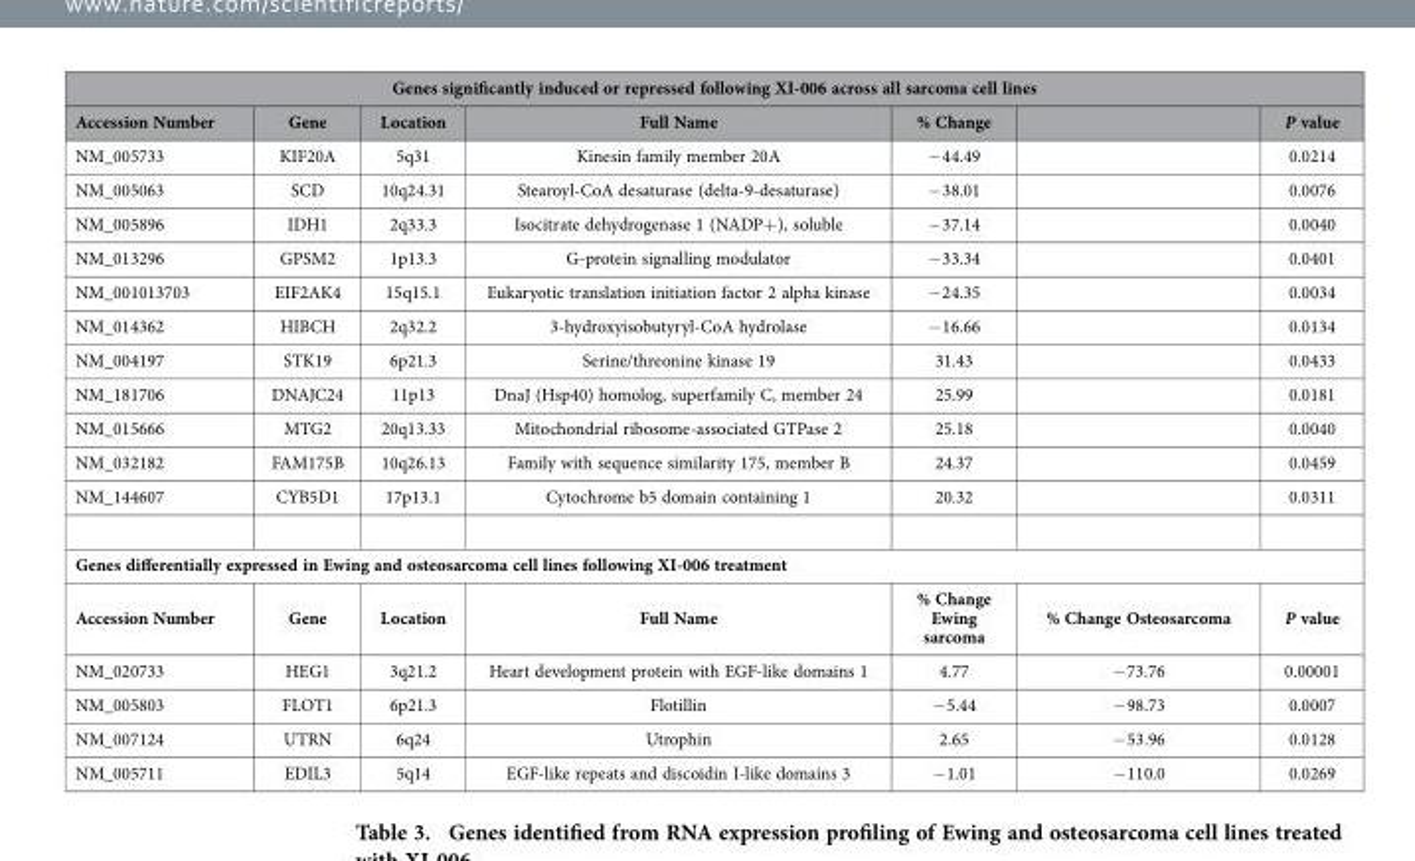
<table><thead><tr><td colspan="7">Genes significantly induced or repressed following XI-006 across all sarcoma cell lines</td></tr><tr><td>Accession Number</td><td>Gene</td><td>Location</td><td>Full Name</td><td>% Change</td><td></td><td>P value</td></tr></thead><tbody><tr><td>NM_005733</td><td>KIF20A</td><td>5q31</td><td>Kinesin family member 20A</td><td>− 44.49</td><td></td><td>0.0214</td></tr><tr><td>NM_005063</td><td>SCD</td><td>10q24.31</td><td>Stearoyl-CoA desaturase (delta-9-desaturase)</td><td>− 38.01</td><td></td><td>0.0076</td></tr><tr><td>NM_005896</td><td>IDH1</td><td>2q33.3</td><td>Isocitrate dehydrogenase 1 (NADP+ ), soluble</td><td>− 37.14</td><td></td><td>0.0040</td></tr><tr><td>NM_013296</td><td>GPSM2</td><td>1p13.3</td><td>G-protein signalling modulator</td><td>− 33.34</td><td></td><td>0.0401</td></tr><tr><td>NM_001013703</td><td>EIF2AK4</td><td>15q15.1</td><td>Eukaryotic translation initiation factor 2 alpha kinase</td><td>− 24.35</td><td></td><td>0.0034</td></tr><tr><td>NM_014362</td><td>HIBCH</td><td>2q32.2</td><td>3-hydroxyisobutyryl-CoA hydrolase</td><td>− 16.66</td><td></td><td>0.0134</td></tr><tr><td>NM_004197</td><td>STK19</td><td>6p21.3</td><td>Serine/threonine kinase 19</td><td>31.43</td><td></td><td>0.0433</td></tr><tr><td>NM_181706</td><td>DNAJC24</td><td>11p13</td><td>DnaJ (Hsp40) homolog, superfamily C, member 24</td><td>25.99</td><td></td><td>0.0181</td></tr><tr><td>NM_015666</td><td>MTG2</td><td>20q13.33</td><td>Mitochondrial ribosome-associated GTPase 2</td><td>25.18</td><td></td><td>0.0040</td></tr><tr><td>NM_032182</td><td>FAM175B</td><td>10q26.13</td><td>Family with sequence similarity 175, member B</td><td>24.37</td><td></td><td>0.0459</td></tr><tr><td>NM_144607</td><td>CYB5D1</td><td>17p13.1</td><td>Cytochrome b5 domain containing 1</td><td>20.32</td><td></td><td>0.0311</td></tr><tr><td colspan="7">Genes differentially expressed in Ewing and osteosarcoma cell lines following XI-006 treatment</td></tr><tr><td>Accession Number</td><td>Gene</td><td>Location</td><td>Full Name</td><td>% Change Ewing sarcoma</td><td>% Change Osteosarcoma</td><td>P value</td></tr><tr><td>NM_020733</td><td>HEG1</td><td>3q21.2</td><td>Heart development protein with EGF-like domains 1</td><td>4.77</td><td>− 73.76</td><td>0.00001</td></tr><tr><td>NM_005803</td><td>FLOT1</td><td>6p21.3</td><td>Flotillin</td><td>− 5.44</td><td>− 98.73</td><td>0.0007</td></tr><tr><td>NM_007124</td><td>UTRN</td><td>6q24</td><td>Utrophin</td><td>2.65</td><td>− 53.96</td><td>0.0128</td></tr><tr><td>NM_005711</td><td>EDIL3</td><td>5q14</td><td>EGF-like repeats and discoidin I-like domains 3</td><td>− 1.01</td><td>− 110.0</td><td>0.0269</td></tr></tbody></table>